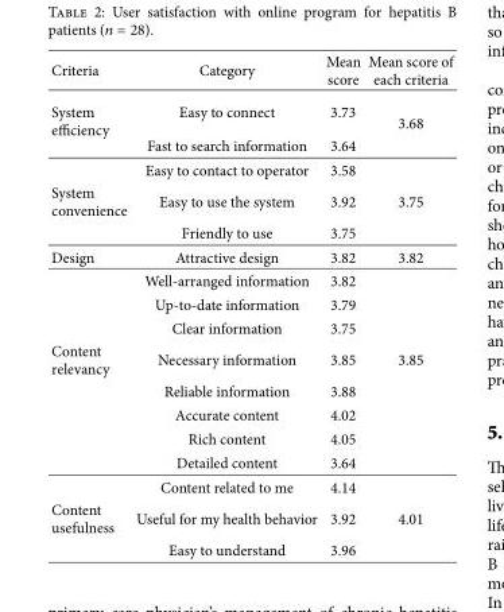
<table><thead><tr><td>Criteria</td><td>Category</td><td>Mean score</td><td>Mean score of each criteria</td></tr></thead><tbody><tr><td rowspan="3">System efficiency</td><td>Easy to connect</td><td>3.73</td><td>3.68</td></tr><tr><td>Fast to search information</td><td>3.64</td><td></td></tr><tr><td>Easy to contact to operator</td><td>3.58</td><td></td></tr><tr><td rowspan="2">System convenience</td><td>Easy to use the system</td><td>3.92</td><td>3.75</td></tr><tr><td>Friendly to use</td><td>3.75</td><td></td></tr><tr><td rowspan="4">Design</td><td>Attractive design</td><td>3.82</td><td>3.82</td></tr><tr><td>Well-arranged information</td><td>3.82</td><td></td></tr><tr><td>Up-to-date information</td><td>3.79</td><td></td></tr><tr><td>Clear information</td><td>3.75</td><td></td></tr><tr><td rowspan="6">Content relevancy</td><td>Necessary information</td><td>3.85</td><td>3.85</td></tr><tr><td>Reliable information</td><td>3.88</td><td></td></tr><tr><td>Accurate content</td><td>4.02</td><td></td></tr><tr><td>Rich content</td><td>4.05</td><td></td></tr><tr><td>Detailed content</td><td>3.64</td><td></td></tr><tr><td>Content related to me</td><td>4.14</td><td></td></tr><tr><td rowspan="2">Content usefulness</td><td>Useful for my health behavior</td><td>3.92</td><td>4.01</td></tr><tr><td>Easy to understand</td><td>3.96</td><td></td></tr></tbody></table>